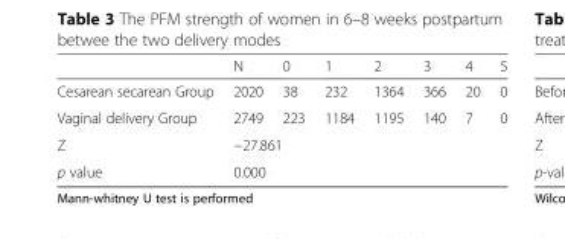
<table><thead><tr><td></td><td>N</td><td>0</td><td>1</td><td>2</td><td>3</td><td>4</td><td>5</td></tr></thead><tbody><tr><td>Cesarean secarean Group</td><td>2020</td><td>38</td><td>232</td><td>1364</td><td>366</td><td>20</td><td>0</td></tr><tr><td>Vaginal delivery Group</td><td>2749</td><td>223</td><td>1184</td><td>1195</td><td>140</td><td>7</td><td>0</td></tr><tr><td>Z</td><td colspan="7">−27.861</td></tr><tr><td>p value</td><td colspan="7">0.000</td></tr></tbody></table>